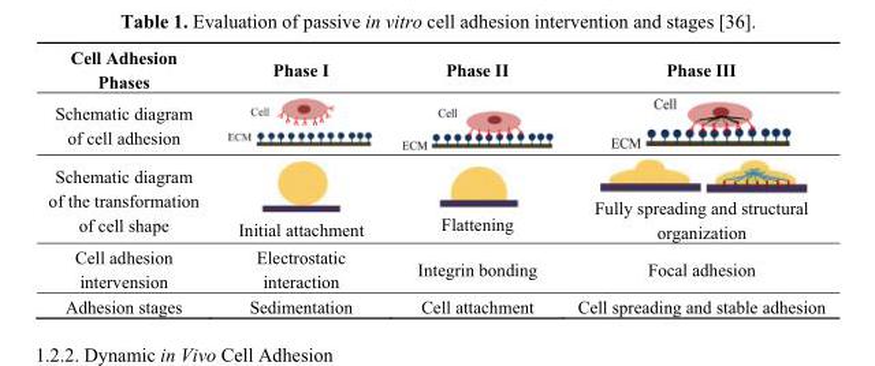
<table><thead><tr><td>Cell Adhesion Phases</td><td>Phase I</td><td>Phase II</td><td>Phase III</td></tr></thead><tbody><tr><td colspan="4">Schematic diagram of cell adhesion</td></tr><tr><td>Schematic diagram of the transformation of cell shape</td><td>Initial attachment</td><td>Flattening</td><td>Fully spreading and structural organization</td></tr><tr><td>Cell adhesion intervension</td><td>Electrostatic interaction</td><td>Integrin bonding</td><td>Focal adhesion</td></tr><tr><td>Adhesion stages</td><td>Sedimentation</td><td>Cell attachment</td><td>Cell spreading and stable adhesion</td></tr></tbody></table>